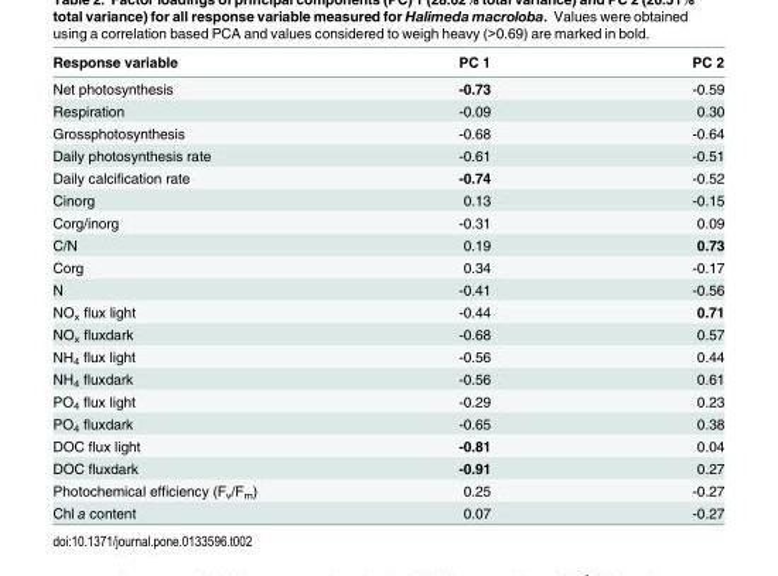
<table><thead><tr><td>Response variable</td><td>PC 1</td><td>PC 2</td></tr></thead><tbody><tr><td>Net photosynthesis</td><td>-0.73</td><td>-0.59</td></tr><tr><td>Respiration</td><td>-0.09</td><td>0.30</td></tr><tr><td>Grossphotosynthesis</td><td>-0.68</td><td>-0.64</td></tr><tr><td>Daily photosynthesis rate</td><td>-0.61</td><td>-0.51</td></tr><tr><td>Daily calcification rate</td><td>-0.74</td><td>-0.52</td></tr><tr><td>Cinorg</td><td>0.13</td><td>-0.15</td></tr><tr><td>Corg/inorg</td><td>-0.31</td><td>0.09</td></tr><tr><td>C/N</td><td>0.19</td><td>0.73</td></tr><tr><td>Corg</td><td>0.34</td><td>-0.17</td></tr><tr><td>N</td><td>-0.41</td><td>-0.56</td></tr><tr><td>NO<sub>x</sub> flux light</td><td>-0.44</td><td>0.71</td></tr><tr><td>NO<sub>x</sub> fluxdark</td><td>-0.68</td><td>0.57</td></tr><tr><td>NH<sub>4</sub> flux light</td><td>-0.56</td><td>0.44</td></tr><tr><td>NH<sub>4</sub> fluxdark</td><td>-0.56</td><td>0.61</td></tr><tr><td>PO<sub>4</sub> flux light</td><td>-0.29</td><td>0.23</td></tr><tr><td>PO<sub>4</sub> fluxdark</td><td>-0.65</td><td>0.38</td></tr><tr><td>DOC flux light</td><td>-0.81</td><td>0.04</td></tr><tr><td>DOC fluxdark</td><td>-0.91</td><td>0.27</td></tr><tr><td>Photochemical efficiency (F<sub>v</sub>/F<sub>m</sub>)</td><td>0.25</td><td>-0.27</td></tr><tr><td>Chl a content</td><td>0.07</td><td>-0.27</td></tr></tbody></table>